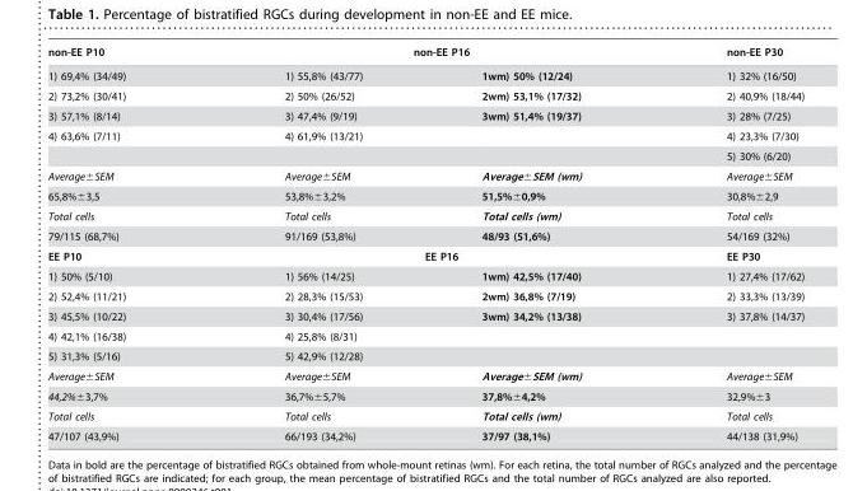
<table><thead><tr><td rowspan="2">non-EE P10 1) 69,4% (34/49)</td><td colspan="2">non-EE P16</td><td rowspan="2">non-EE P30 1) 32% (16/50)</td></tr><tr><td>1) 55,8% (43/77)</td><td>1wm) 50% (12/24)</td></tr></thead><tbody><tr><td>2) 73,2% (30/41)</td><td>2) 50% (26/52)</td><td>2wm) 53,1% (17/32)</td><td>2) 40,9% (18/44)</td></tr><tr><td>3) 57,1% (8/14)</td><td>3) 47,4% (9/19)</td><td>3wm) 51,4% (19/37)</td><td>3) 28% (7/25)</td></tr><tr><td rowspan="2">4) 63,6% (7/11)</td><td>4) 61,9% (13/21)</td><td></td><td>4) 23,3% (7/30)</td></tr><tr><td></td><td></td><td>5) 30% (6/20)</td></tr><tr><td>Average±SEM</td><td>Average±SEM</td><td>Average±SEM (wm)</td><td>Average±SEM</td></tr><tr><td>65,8%±3,5</td><td>53,8%±3,2%</td><td>51,5%±0,9%</td><td>30,8%±2,9</td></tr><tr><td>Total cells</td><td>Total cells</td><td>Total cells (wm)</td><td>Total cells</td></tr><tr><td>79/115 (68,7%)</td><td>91/169 (53,8%)</td><td>48/93 (51,6%)</td><td>54/169 (32%)</td></tr><tr><td>EE P10</td><td colspan="2">EE P16</td><td>EE P30</td></tr><tr><td>1) 50% (5/10)</td><td>1) 56% (14/25)</td><td>1wm) 42,5% (17/40)</td><td>1) 27,4% (17/62)</td></tr><tr><td>2) 52,4% (11/21)</td><td>2) 28,3% (15/53)</td><td>2wm) 36,8% (7/19)</td><td>2) 33,3% (13/39)</td></tr><tr><td>3) 45,5% (10/22)</td><td>3) 30,4% (17/56)</td><td>3wm) 34,2% (13/38)</td><td>3) 37,8% (14/37)</td></tr><tr><td>4) 42,1% (16/38)</td><td>4) 25,8% (8/31)</td><td></td><td></td></tr><tr><td>5) 31,3% (5/16)</td><td>5) 42,9% (12/28)</td><td></td><td></td></tr><tr><td>Average±SEM</td><td>Average±SEM</td><td>Average±SEM (wm)</td><td>Average±SEM</td></tr><tr><td>44,2%±3,7%</td><td>36,7%±5,7%</td><td>37,8%±4,2%</td><td>32,9%±3</td></tr><tr><td>Total cells</td><td>Total cells</td><td>Total cells (wm)</td><td>Total cells</td></tr><tr><td>47/107 (43,9%)</td><td>66/193 (34,2%)</td><td>37/97 (38,1%)</td><td>44/138 (31,9%)</td></tr></tbody></table>